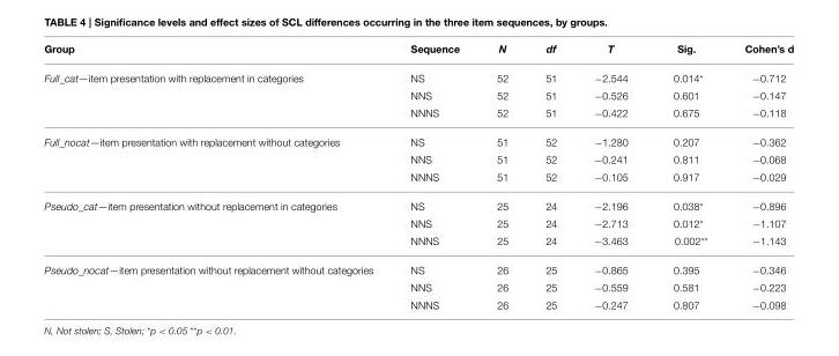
<table><thead><tr><td>Group</td><td>Sequence</td><td>N</td><td>df</td><td>T</td><td>Sig.</td><td>Cohen’s d</td></tr></thead><tbody><tr><td rowspan="3">Full_cat—item presentation with replacement in categories</td><td>NS</td><td>52</td><td>51</td><td>−2.544</td><td>0.014*</td><td>−0.712</td></tr><tr><td>NNS</td><td>52</td><td>51</td><td>−0.526</td><td>0.601</td><td>−0.147</td></tr><tr><td>NNNS</td><td>52</td><td>51</td><td>−0.422</td><td>0.675</td><td>−0.118</td></tr><tr><td rowspan="3">Full_nocat—item presentation with replacement without categories</td><td>NS</td><td>51</td><td>52</td><td>−1.280</td><td>0.207</td><td>−0.362</td></tr><tr><td>NNS</td><td>51</td><td>52</td><td>−0.241</td><td>0.811</td><td>−0.068</td></tr><tr><td>NNNS</td><td>51</td><td>52</td><td>−0.105</td><td>0.917</td><td>−0.029</td></tr><tr><td rowspan="3">Pseudo_cat—item presentation without replacement in categories</td><td>NS</td><td>25</td><td>24</td><td>−2.196</td><td>0.038*</td><td>−0.896</td></tr><tr><td>NNS</td><td>25</td><td>24</td><td>−2.713</td><td>0.012*</td><td>−1.107</td></tr><tr><td>NNNS</td><td>25</td><td>24</td><td>−3.463</td><td>0.002**</td><td>−1.143</td></tr><tr><td rowspan="3">Pseudo_nocat—item presentation without replacement without categories</td><td>NS</td><td>26</td><td>25</td><td>−0.865</td><td>0.395</td><td>−0.346</td></tr><tr><td>NNS</td><td>26</td><td>25</td><td>−0.559</td><td>0.581</td><td>−0.223</td></tr><tr><td>NNNS</td><td>26</td><td>25</td><td>−0.247</td><td>0.807</td><td>−0.098</td></tr></tbody></table>